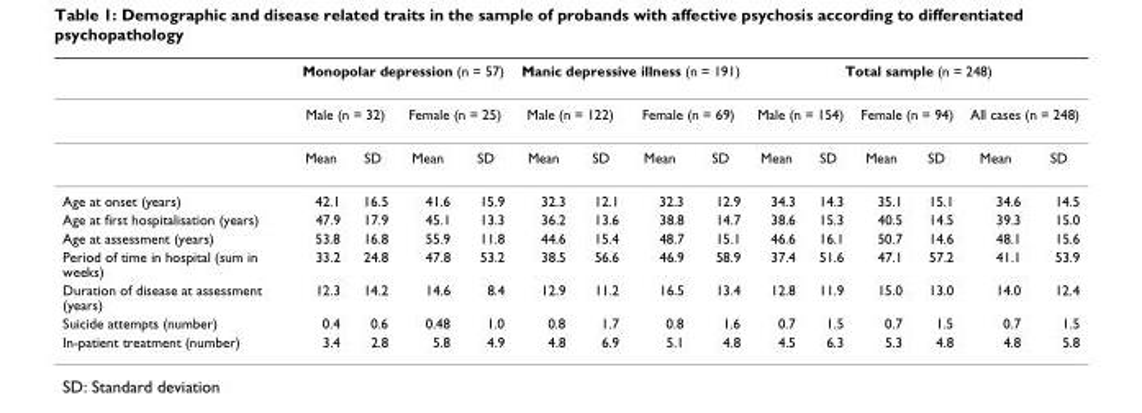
<table><thead><tr><td rowspan="3"></td><td colspan="4">Monopolar depression (n = 57)</td><td colspan="4">Manic depressive illness (n = 191)</td><td colspan="6">Total sample (n = 248)</td></tr><tr><td colspan="2">Male (n = 32)</td><td colspan="2">Female (n = 25)</td><td colspan="2">Male (n = 122)</td><td colspan="2">Female (n = 69)</td><td colspan="2">Male (n = 154)</td><td colspan="2">Female (n = 94)</td><td colspan="2">All cases (n = 248)</td></tr><tr><td>Mean</td><td>SD</td><td>Mean</td><td>SD</td><td>Mean</td><td>SD</td><td>Mean</td><td>SD</td><td>Mean</td><td>SD</td><td>Mean</td><td>SD</td><td>Mean</td><td>SD</td></tr></thead><tbody><tr><td>Age at onset (years)</td><td>42.1</td><td>16.5</td><td>41.6</td><td>15.9</td><td>32.3</td><td>12.1</td><td>32.3</td><td>12.9</td><td>34.3</td><td>14.3</td><td>35.1</td><td>15.1</td><td>34.6</td><td>14.5</td></tr><tr><td>Age at first hospitalisation (years)</td><td>47.9</td><td>17.9</td><td>45.1</td><td>13.3</td><td>36.2</td><td>13.6</td><td>38.8</td><td>14.7</td><td>38.6</td><td>15.3</td><td>40.5</td><td>14.5</td><td>39.3</td><td>15.0</td></tr><tr><td>Age at assessment (years)</td><td>53.8</td><td>16.8</td><td>55.9</td><td>11.8</td><td>44.6</td><td>15.4</td><td>48.7</td><td>15.1</td><td>46.6</td><td>16.1</td><td>50.7</td><td>14.6</td><td>48.1</td><td>15.6</td></tr><tr><td>Period of time in hospital (sum in weeks)</td><td>33.2</td><td>24.8</td><td>47.8</td><td>53.2</td><td>38.5</td><td>56.6</td><td>46.9</td><td>58.9</td><td>37.4</td><td>51.6</td><td>47.1</td><td>57.2</td><td>41.1</td><td>53.9</td></tr><tr><td>Duration of disease at assessment (years)</td><td>12.3</td><td>14.2</td><td>14.6</td><td>8.4</td><td>12.9</td><td>11.2</td><td>16.5</td><td>13.4</td><td>12.8</td><td>11.9</td><td>15.0</td><td>13.0</td><td>14.0</td><td>12.4</td></tr><tr><td>Suicide attempts (number)</td><td>0.4</td><td>0.6</td><td>0.48</td><td>1.0</td><td>0.8</td><td>1.7</td><td>0.8</td><td>1.6</td><td>0.7</td><td>1.5</td><td>0.7</td><td>1.5</td><td>0.7</td><td>1.5</td></tr><tr><td>In-patient treatment (number)</td><td>3.4</td><td>2.8</td><td>5.8</td><td>4.9</td><td>4.8</td><td>6.9</td><td>5.1</td><td>4.8</td><td>4.5</td><td>6.3</td><td>5.3</td><td>4.8</td><td>4.8</td><td>5.8</td></tr></tbody></table>